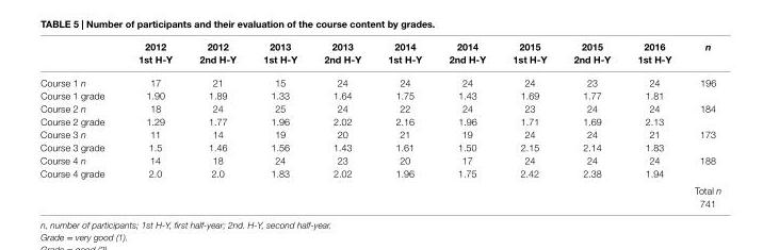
<table><thead><tr><td></td><td>2012 1st H-y</td><td>2012 2nd H-y</td><td>2013 1st H-y</td><td>2013 2nd H-y</td><td>2014 1st H-y</td><td>2014 2nd H-y</td><td>2015 1st H-y</td><td>2015 2nd H-y</td><td>2016 1st H-y</td><td>n</td></tr></thead><tbody><tr><td>Course 1 n</td><td>17</td><td>21</td><td>15</td><td>24</td><td>24</td><td>24</td><td>24</td><td>23</td><td>24</td><td>196</td></tr><tr><td>Course 1 grade</td><td>1.90</td><td>1.89</td><td>1.33</td><td>1.64</td><td>1.75</td><td>1.43</td><td>1.69</td><td>1.77</td><td>1.81</td><td></td></tr><tr><td>Course 2 n</td><td>18</td><td>24</td><td>25</td><td>24</td><td>22</td><td>24</td><td>23</td><td>24</td><td>24</td><td>184</td></tr><tr><td>Course 2 grade</td><td>1.29</td><td>1.77</td><td>1.96</td><td>2.02</td><td>2.16</td><td>1.96</td><td>1.71</td><td>1.69</td><td>2.13</td><td></td></tr><tr><td>Course 3 n</td><td>11</td><td>14</td><td>19</td><td>20</td><td>21</td><td>19</td><td>24</td><td>24</td><td>21</td><td>173</td></tr><tr><td>Course 3 grade</td><td>1.5</td><td>1.46</td><td>1.56</td><td>1.43</td><td>1.61</td><td>1.50</td><td>2.15</td><td>2.14</td><td>1.83</td><td></td></tr><tr><td>Course 4 n</td><td>14</td><td>18</td><td>24</td><td>23</td><td>20</td><td>17</td><td>24</td><td>24</td><td>24</td><td>188</td></tr><tr><td rowspan="2">Course 4 grade</td><td>2.0</td><td>2.0</td><td>1.83</td><td>2.02</td><td>1.96</td><td>1.75</td><td>2.42</td><td>2.38</td><td>1.94</td><td></td></tr><tr><td></td><td></td><td></td><td></td><td></td><td></td><td></td><td></td><td></td><td>Total n 741</td></tr></tbody></table>